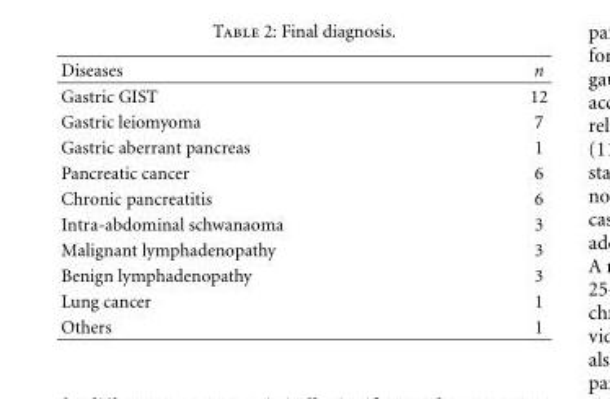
<table><thead><tr><td>Diseases</td><td>n</td></tr></thead><tbody><tr><td>Gastric GIST</td><td>12</td></tr><tr><td>Gastric leiomyoma</td><td>7</td></tr><tr><td>Gastric aberrant pancreas</td><td>1</td></tr><tr><td>Pancreatic cancer</td><td>6</td></tr><tr><td>Chronic pancreatitis</td><td>6</td></tr><tr><td>Intra-abdominal schwanaoma</td><td>3</td></tr><tr><td>Malignant lymphadenopathy</td><td>3</td></tr><tr><td>Benign lymphadenopathy</td><td>3</td></tr><tr><td>Lung cancer</td><td>1</td></tr><tr><td>Others</td><td>1</td></tr></tbody></table>